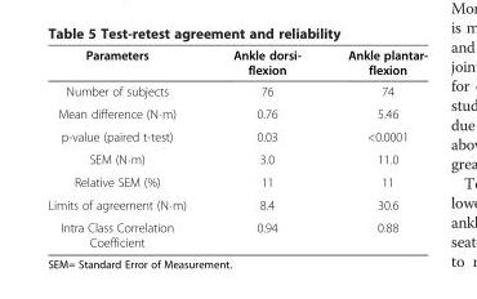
<table><thead><tr><td>Parameters</td><td>Ankle dorsi- flexion</td><td>Ankle plantar- flexion</td></tr></thead><tbody><tr><td>Number of subjects</td><td>76</td><td>74</td></tr><tr><td>Mean difference (N⋅m)</td><td>0.76</td><td>5.46</td></tr><tr><td>p-value (paired t-test)</td><td>0.03</td><td>&lt;0.0001</td></tr><tr><td>SEM (N⋅m)</td><td>3.0</td><td>11.0</td></tr><tr><td>Relative SEM (%)</td><td>11</td><td>11</td></tr><tr><td>Limits of agreement (N⋅m)</td><td>8.4</td><td>30.6</td></tr><tr><td>Intra Class Correlation Coefficient</td><td>0.94</td><td>0.88</td></tr></tbody></table>